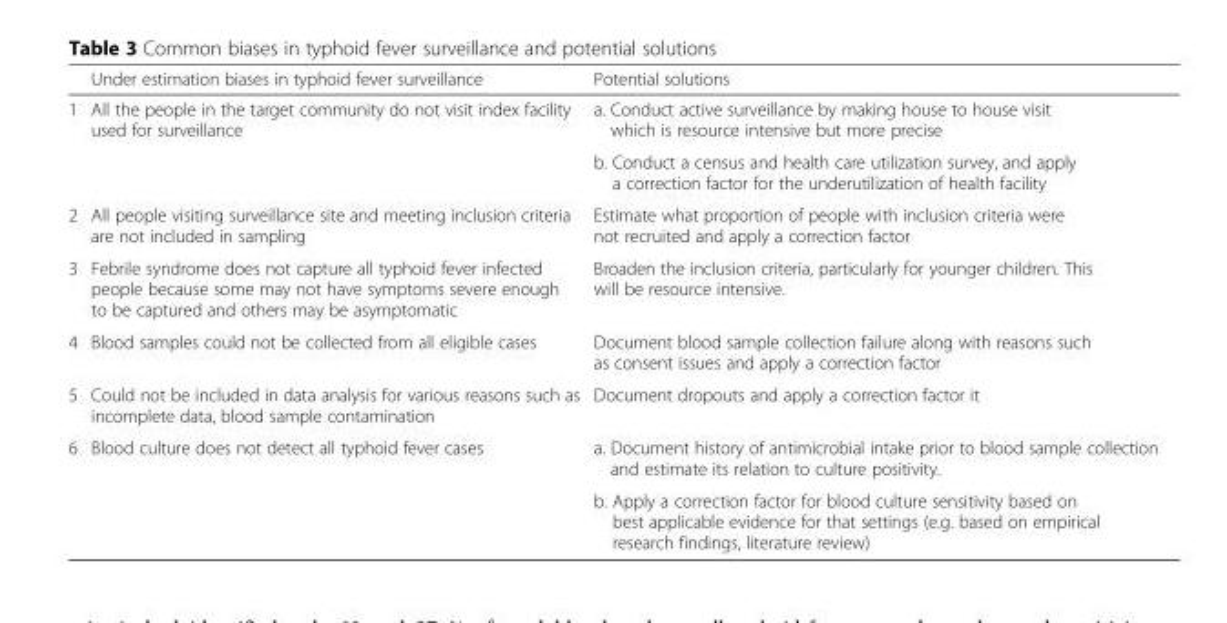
<table><thead><tr><td></td><td>Under estimation biases in typhoid fever surveillance</td><td>Potential solutions</td></tr></thead><tbody><tr><td rowspan="2">1</td><td rowspan="2">All the people in the target community do not visit index facility used for surveillance</td><td>a. Conduct active surveillance by making house to house visit which is resource intensive but more precise</td></tr><tr><td>b. Conduct a census and health care utilization survey, and apply a correction factor for the underutilization of health facility</td></tr><tr><td>2</td><td>All people visiting surveillance site and meeting inclusion criteria are not included in sampling</td><td>Estimate what proportion of people with inclusion criteria were not recruited and apply a correction factor</td></tr><tr><td>3</td><td>Febrile syndrome does not capture all typhoid fever infected people because some may not have symptoms severe enough to be captured and others may be asymptomatic</td><td>Broaden the inclusion criteria, particularly for younger children. This will be resource intensive.</td></tr><tr><td>4</td><td>Blood samples could not be collected from all eligible cases</td><td>Document blood sample collection failure along with reasons such as consent issues and apply a correction factor</td></tr><tr><td>5</td><td>Could not be included in data analysis for various reasons such as incomplete data, blood sample contamination</td><td>Document dropouts and apply a correction factor it</td></tr><tr><td rowspan="2">6</td><td rowspan="2">Blood culture does not detect all typhoid fever cases</td><td>a. Document history of antimicrobial intake prior to blood sample collection and estimate its relation to culture positivity.</td></tr><tr><td>b. Apply a correction factor for blood culture sensitivity based on best applicable evidence for that settings (e.g. based on empirical research findings, literature review)</td></tr></tbody></table>